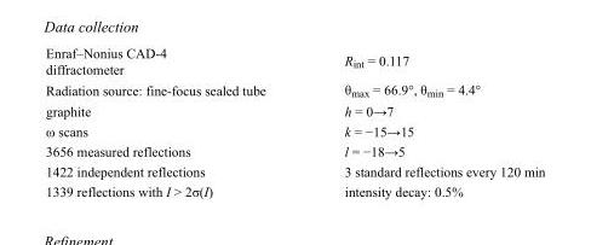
<table><tbody><tr><td>Enraf–Nonius CAD-4 diffractometer</td><td>R<sub>int</sub> = 0.117</td></tr><tr><td>Radiation source: fine-focus sealed tube</td><td>θ<sub>max</sub> = 66.9°, θ<sub>min</sub> = 4.4°</td></tr><tr><td>graphite</td><td>h = 0→7</td></tr><tr><td>ω scans</td><td>k = −15→15</td></tr><tr><td>3656 measured reflections</td><td>l = −18→5</td></tr><tr><td>1422 independent reflections</td><td>3 standard reflections every 120 min</td></tr><tr><td>1339 reflections with I &gt; 2σ(I)</td><td>intensity decay: 0.5%</td></tr></tbody></table>